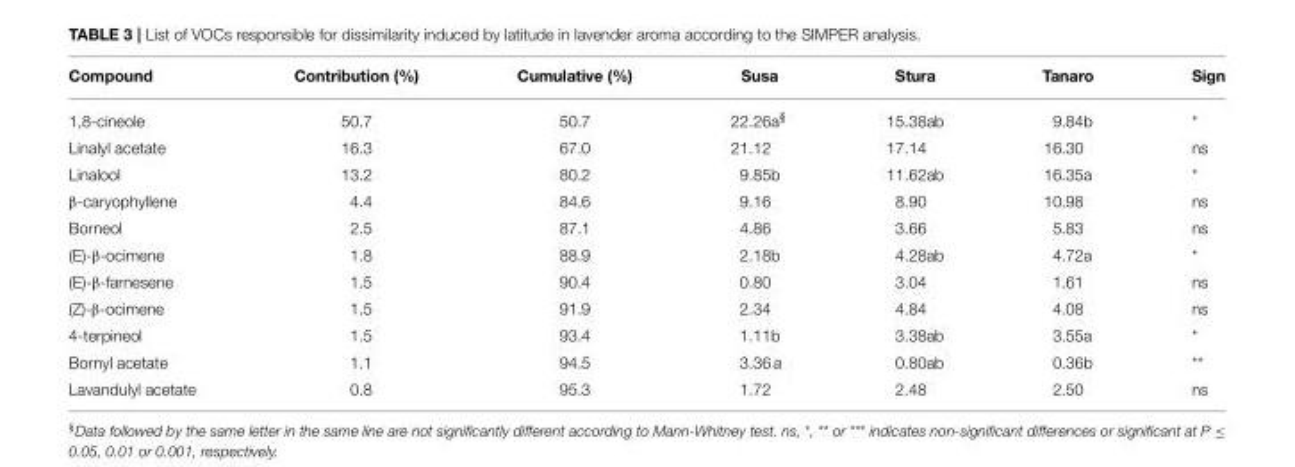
<table><thead><tr><td>Compound</td><td>Contribution (%)</td><td>Cumulative (%)</td><td>Susa</td><td>Stura</td><td>Tanaro</td><td>Sign</td></tr></thead><tbody><tr><td>1,8-cineole</td><td>50.7</td><td>50.7</td><td>22.26a<sup>§</sup></td><td>15.38ab</td><td>9.84b</td><td>*</td></tr><tr><td>Linalyl acetate</td><td>16.3</td><td>67.0</td><td>21.12</td><td>17.14</td><td>16.30</td><td>ns</td></tr><tr><td>Linalool</td><td>13.2</td><td>80.2</td><td>9.85b</td><td>11.62ab</td><td>16.35a</td><td>*</td></tr><tr><td>β-caryophyllene</td><td>4.4</td><td>84.6</td><td>9.16</td><td>8.90</td><td>10.98</td><td>ns</td></tr><tr><td>Borneol</td><td>2.5</td><td>87.1</td><td>4.86</td><td>3.66</td><td>5.83</td><td>ns</td></tr><tr><td>(E)-β-ocimene</td><td>1.8</td><td>88.9</td><td>2.18b</td><td>4.28ab</td><td>4.72a</td><td>*</td></tr><tr><td>(E)-β-farnesene</td><td>1.5</td><td>90.4</td><td>0.80</td><td>3.04</td><td>1.61</td><td>ns</td></tr><tr><td>(Z)-β-ocimene</td><td>1.5</td><td>91.9</td><td>2.34</td><td>4.84</td><td>4.08</td><td>ns</td></tr><tr><td>4-terpineol</td><td>1.5</td><td>93.4</td><td>1.11b</td><td>3.38ab</td><td>3.55a</td><td>*</td></tr><tr><td>Bornyl acetate</td><td>1.1</td><td>94.5</td><td>3.36 a</td><td>0.80ab</td><td>0.36b</td><td>**</td></tr><tr><td>Lavandulyl acetate</td><td>0.8</td><td>95.3</td><td>1.72</td><td>2.48</td><td>2.50</td><td>ns</td></tr></tbody></table>